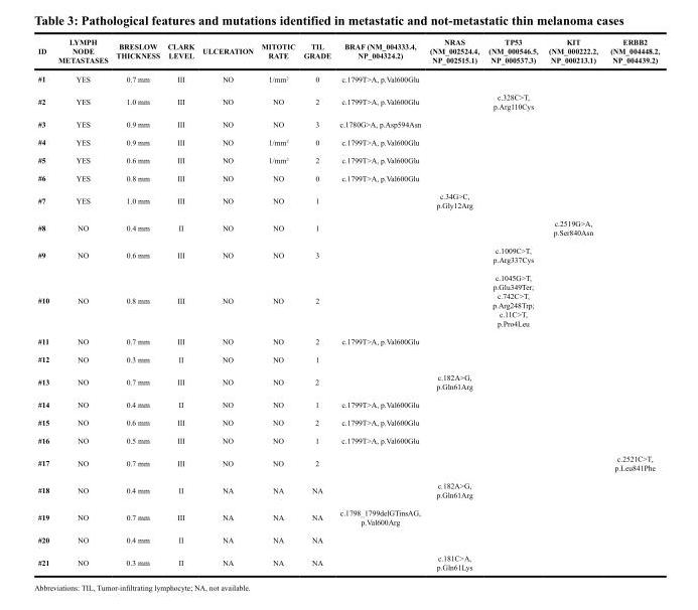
<table><thead><tr><td>ID</td><td>LYMPH NODE METASTASES</td><td>BRESLOW THICKNESS</td><td>CLARK LEVEL</td><td>ULCERATION</td><td>MITOTIC RATE</td><td>TIL GRADE</td><td>BRAF (NM_004333.4, NP_004324.2)</td><td>NRAS (NM_002524.4, NP_002515.1)</td><td>TP53 (NM_000546.5, NP_000537.3)</td><td>KIT (NM_000222.2, NP_000213.1)</td><td>ERBB2 (NM_004448.2, NP_004439.2)</td></tr></thead><tbody><tr><td>#1</td><td>YES</td><td>0.7 mm</td><td>III</td><td>NO</td><td>1/mm<sup>2</sup></td><td>0</td><td>c.1799T&gt;A, p.Val600Glu</td><td></td><td></td><td></td><td></td></tr><tr><td>#2</td><td>YES</td><td>1.0 mm</td><td>III</td><td>NO</td><td>NO</td><td>2</td><td>c.1799T&gt;A, p.Val600Glu</td><td></td><td>c.328C&gt;T, p.Arg110Cys</td><td></td><td></td></tr><tr><td>#3</td><td>YES</td><td>0.9 mm</td><td>III</td><td>NO</td><td>NO</td><td>3</td><td>c.1780G&gt;A, p.Asp594Asn</td><td></td><td></td><td></td><td></td></tr><tr><td>#4</td><td>YES</td><td>0.9 mm</td><td>III</td><td>NO</td><td>1/mm<sup>2</sup></td><td>0</td><td>c.1799T&gt;A, p.Val600Glu</td><td></td><td></td><td></td><td></td></tr><tr><td>#5</td><td>YES</td><td>0.6 mm</td><td>III</td><td>NO</td><td>1/mm<sup>2</sup></td><td>2</td><td>c.1799T&gt;A, p.Val600Glu</td><td></td><td></td><td></td><td></td></tr><tr><td>#6</td><td>YES</td><td>0.8 mm</td><td>III</td><td>NO</td><td>NO</td><td>0</td><td>c.1799T&gt;A, p.Val600Glu</td><td></td><td></td><td></td><td></td></tr><tr><td>#7</td><td>YES</td><td>1.0 mm</td><td>III</td><td>NO</td><td>NO</td><td>1</td><td></td><td>c.34G&gt;C, p.Gly12Arg</td><td></td><td></td><td></td></tr><tr><td>#8</td><td>NO</td><td>0.4 mm</td><td>II</td><td>NO</td><td>NO</td><td>1</td><td></td><td></td><td></td><td>c.2519G&gt;A, p.Ser840Asn</td><td></td></tr><tr><td>#9</td><td>NO</td><td>0.6 mm</td><td>III</td><td>NO</td><td>NO</td><td>3</td><td></td><td></td><td>c.1009C&gt;T, p.Arg337Cys</td><td></td><td></td></tr><tr><td>#10</td><td>NO</td><td>0.8 mm</td><td>III</td><td>NO</td><td>NO</td><td>2</td><td></td><td></td><td>c.1045G&gt;T, p.Glu349Ter; c.742C&gt;T, p.Arg248Trp; c.11C&gt;T, p.Pro4Leu</td><td></td><td></td></tr><tr><td>#11</td><td>NO</td><td>0.7 mm</td><td>III</td><td>NO</td><td>NO</td><td>2</td><td>c.1799T&gt;A, p.Val600Glu</td><td></td><td></td><td></td><td></td></tr><tr><td>#12</td><td>NO</td><td>0.3 mm</td><td>II</td><td>NO</td><td>NO</td><td>1</td><td></td><td></td><td></td><td></td><td></td></tr><tr><td>#13</td><td>NO</td><td>0.7 mm</td><td>III</td><td>NO</td><td>NO</td><td>2</td><td></td><td>c.182A&gt;G, p.Gln61Arg</td><td></td><td></td><td></td></tr><tr><td>#14</td><td>NO</td><td>0.4 mm</td><td>II</td><td>NO</td><td>NO</td><td>1</td><td>c.1799T&gt;A, p.Val600Glu</td><td></td><td></td><td></td><td></td></tr><tr><td>#15</td><td>NO</td><td>0.6 mm</td><td>III</td><td>NO</td><td>NO</td><td>2</td><td>c.1799T&gt;A, p.Val600Glu</td><td></td><td></td><td></td><td></td></tr><tr><td>#16</td><td>NO</td><td>0.5 mm</td><td>III</td><td>NO</td><td>NO</td><td>1</td><td>c.1799T&gt;A, p.Val600Glu</td><td></td><td></td><td></td><td></td></tr><tr><td>#17</td><td>NO</td><td>0.7 mm</td><td>III</td><td>NO</td><td>NO</td><td>2</td><td></td><td></td><td></td><td></td><td>c.2521C&gt;T, p.Leu841Phe</td></tr><tr><td>#18</td><td>NO</td><td>0.4 mm</td><td>II</td><td>NA</td><td>NA</td><td>NA</td><td></td><td>c.182A&gt;G, p.Gln61Arg</td><td></td><td></td><td></td></tr><tr><td>#19</td><td>NO</td><td>0.7 mm</td><td>III</td><td>NA</td><td>NA</td><td>NA</td><td>c.1798_1799delGTinsAG, p.Val600Arg</td><td></td><td></td><td></td><td></td></tr><tr><td>#20</td><td>NO</td><td>0.4 mm</td><td>II</td><td>NA</td><td>NA</td><td>NA</td><td></td><td></td><td></td><td></td><td></td></tr><tr><td>#21</td><td>NO</td><td>0.3 mm</td><td>II</td><td>NA</td><td>NA</td><td>NA</td><td></td><td>c.181C&gt;A, p.Gln61Lys</td><td></td><td></td><td></td></tr></tbody></table>